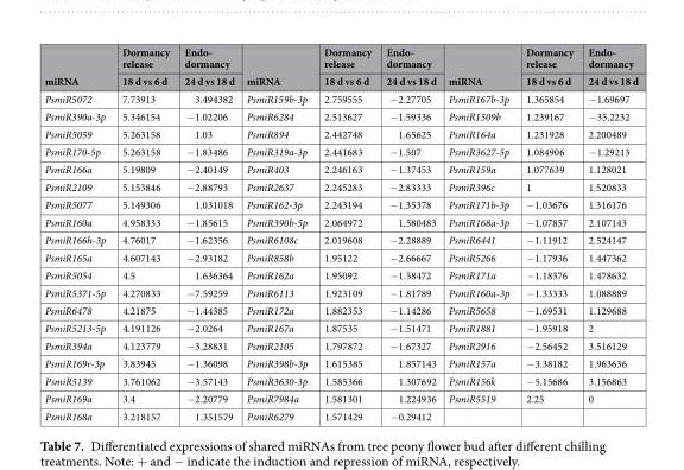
<table><thead><tr><td rowspan="2">miRNA</td><td rowspan="2">Dormancy release 18 d vs 6 d</td><td rowspan="2">Endo- dormancy 24 d vs 18 d</td><td rowspan="2">miRNA</td><td rowspan="2">Dormancy release 18 d vs 6 d</td><td rowspan="2">Endo- dormancy 24 d vs 18 d</td><td rowspan="2">miRNA</td><td rowspan="2">Dormancy release 18 d vs 6 d</td><td rowspan="2">Endo- dormancy 24 d vs 18 d</td></tr><tr></tr></thead><tbody><tr><td>PsmiR5072</td><td>7.73913</td><td>3.494382</td><td>PsmiR159b-3p</td><td>2.759555</td><td>−2.27705</td><td>PsmiR167b-3p</td><td>1.365854</td><td>−1.69697</td></tr><tr><td>PsmiR390a-3p</td><td>5.346154</td><td>−1.02206</td><td>PsmiR6284</td><td>2.513627</td><td>−1.59336</td><td>PsmiR1509b</td><td>1.239167</td><td>−35.2232</td></tr><tr><td>PsmiR5059</td><td>5.263158</td><td>1.03</td><td>PsmiR894</td><td>2.442748</td><td>1.65625</td><td>PsmiR164a</td><td>1.231928</td><td>2.200489</td></tr><tr><td>PsmiR170-5p</td><td>5.263158</td><td>−1.83486</td><td>PsmiR319a-3p</td><td>2.441683</td><td>−1.507</td><td>PsmiR3627-5p</td><td>1.084906</td><td>−1.29213</td></tr><tr><td>PsmiR166a</td><td>5.19809</td><td>−2.40149</td><td>PsmiR403</td><td>2.246163</td><td>−1.37453</td><td>PsmiR159a</td><td>1.077639</td><td>1.128021</td></tr><tr><td>PsmiR2109</td><td>5.153846</td><td>−2.88793</td><td>PsmiR2637</td><td>2.245283</td><td>−2.83333</td><td>PsmiR396c</td><td>1</td><td>1.520833</td></tr><tr><td>PsmiR5077</td><td>5.149306</td><td>1.031018</td><td>PsmiR162-3p</td><td>2.243194</td><td>−1.35378</td><td>PsmiR171b-3p</td><td>−1.03676</td><td>1.316176</td></tr><tr><td>PsmiR160a</td><td>4.958333</td><td>−1.85615</td><td>PsmiR390b-5p</td><td>2.064972</td><td>1.580483</td><td>PsmiR168a-3p</td><td>−1.07857</td><td>2.107143</td></tr><tr><td>PsmiR166h-3p</td><td>4.76017</td><td>−1.62356</td><td>PsmiR6108c</td><td>2.019608</td><td>−2.28889</td><td>PsmiR6441</td><td>−1.11912</td><td>2.524147</td></tr><tr><td>PsmiR165a</td><td>4.607143</td><td>−2.93182</td><td>PsmiR858b</td><td>1.95122</td><td>−2.66667</td><td>PsmiR5266</td><td>−1.17936</td><td>1.447362</td></tr><tr><td>PsmiR5054</td><td>4.5</td><td>1.636364</td><td>PsmiR162a</td><td>1.95092</td><td>−1.58472</td><td>PsmiR171a</td><td>−1.18376</td><td>1.478632</td></tr><tr><td>PsmiR5371-5p</td><td>4.270833</td><td>−7.59259</td><td>PsmiR6113</td><td>1.923109</td><td>−1.81789</td><td>PsmiR160a-3p</td><td>−1.33333</td><td>1.088889</td></tr><tr><td>PsmiR6478</td><td>4.21875</td><td>−1.44385</td><td>PsmiR172a</td><td>1.882353</td><td>−1.14286</td><td>PsmiR5658</td><td>−1.69531</td><td>1.129688</td></tr><tr><td>PsmiR5213-5p</td><td>4.191126</td><td>−2.0264</td><td>PsmiR167a</td><td>1.87535</td><td>−1.51471</td><td>PsmiR1881</td><td>−1.95918</td><td>2</td></tr><tr><td>PsmiR394a</td><td>4.123779</td><td>−3.28831</td><td>PsmiR2105</td><td>1.797872</td><td>−1.67327</td><td>PsmiR2916</td><td>−2.56452</td><td>3.516129</td></tr><tr><td>PsmiR169r-3p</td><td>3.83945</td><td>−1.36098</td><td>PsmiR398b-3p</td><td>1.615385</td><td>1.857143</td><td>PsmiR157a</td><td>−3.38182</td><td>1.963636</td></tr><tr><td>PsmiR5139</td><td>3.761062</td><td>−3.57143</td><td>PsmiR3630-3p</td><td>1.585366</td><td>1.307692</td><td>PsmiR156k</td><td>−5.15686</td><td>3.156863</td></tr><tr><td>PsmiR169a</td><td>3.4</td><td>−2.20779</td><td>PsmiR7984a</td><td>1.581301</td><td>1.224936</td><td>PsmiR5519</td><td>2.25</td><td>0</td></tr><tr><td>PsmiR168a</td><td>3.218157</td><td>1.351579</td><td>PsmiR6279</td><td>1.571429</td><td>−0.29412</td><td></td><td></td><td></td></tr></tbody></table>